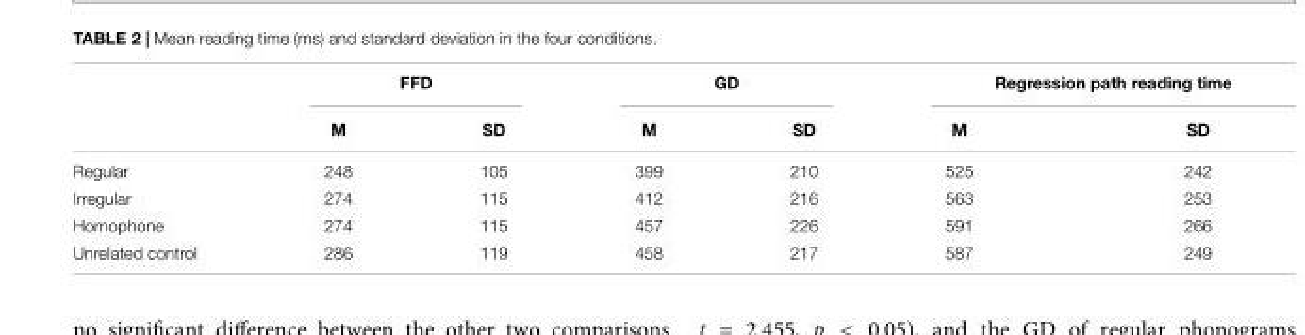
<table><thead><tr><td rowspan="2"></td><td colspan="2">FFD</td><td colspan="2">GD</td><td colspan="2">Regression path reading time</td></tr><tr><td>M</td><td>SD</td><td>M</td><td>SD</td><td>M</td><td>SD</td></tr></thead><tbody><tr><td>Regular</td><td>248</td><td>105</td><td>399</td><td>210</td><td>525</td><td>242</td></tr><tr><td>Irregular</td><td>274</td><td>115</td><td>412</td><td>216</td><td>563</td><td>253</td></tr><tr><td>Homophone</td><td>274</td><td>115</td><td>457</td><td>226</td><td>591</td><td>266</td></tr><tr><td>Unrelated control</td><td>286</td><td>119</td><td>458</td><td>217</td><td>587</td><td>249</td></tr></tbody></table>